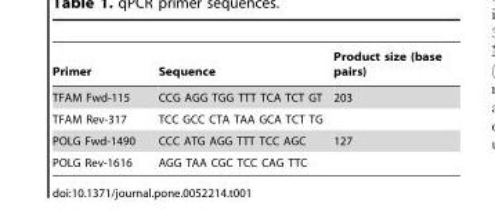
<table><thead><tr><td>Primer</td><td>Sequence</td><td>Product size (base pairs)</td></tr></thead><tbody><tr><td>TFAM Fwd-115</td><td>CCG AGG TGG TTT TCA TCT GT</td><td>203</td></tr><tr><td>TFAM Rev-317</td><td>TCC GCC CTA TAA GCA TCT TG</td><td></td></tr><tr><td>POLG Fwd-1490</td><td>CCC ATG AGG TTT TCC AGC</td><td>127</td></tr><tr><td>POLG Rev-1616</td><td>AGG TAA CGC TCC CAG TTC</td><td></td></tr></tbody></table>